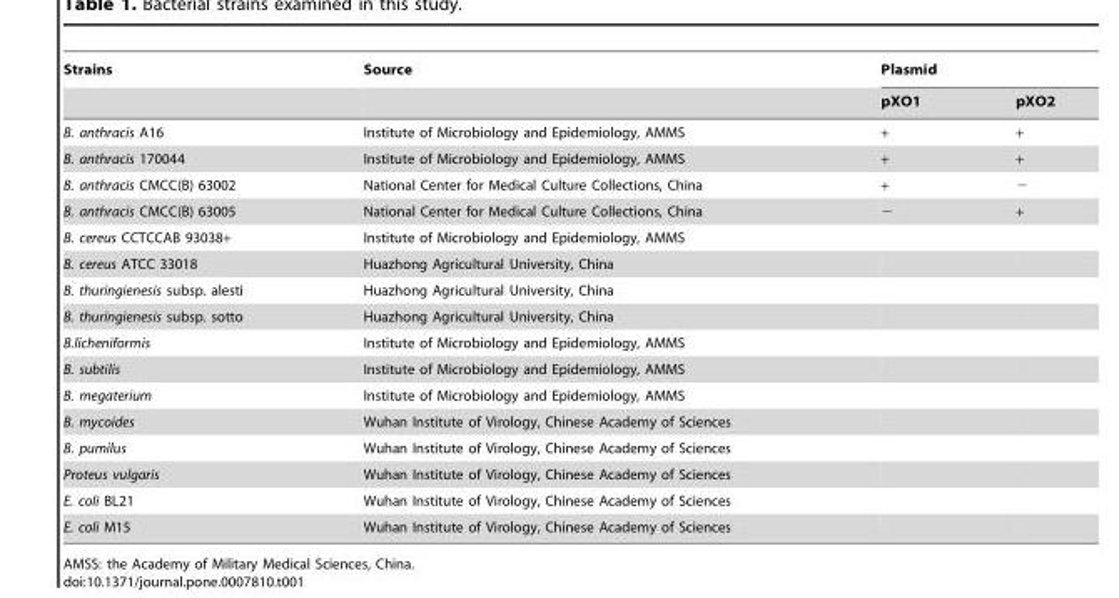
<table><thead><tr><td rowspan="2">Strains</td><td rowspan="2">Source</td><td colspan="2">Plasmid</td></tr><tr><td>pXO1</td><td>pXO2</td></tr></thead><tbody><tr><td>B. anthracis A16</td><td>Institute of Microbiology and Epidemiology, AMMS</td><td>+</td><td>+</td></tr><tr><td>B. anthracis 170044</td><td>Institute of Microbiology and Epidemiology, AMMS</td><td>+</td><td>+</td></tr><tr><td>B. anthracis CMCC(B) 63002</td><td>National Center for Medical Culture Collections, China</td><td>+</td><td>−</td></tr><tr><td>B. anthracis CMCC(B) 63005</td><td>National Center for Medical Culture Collections, China</td><td>−</td><td>+</td></tr><tr><td>B. cereus CCTCCAB 93038+</td><td>Institute of Microbiology and Epidemiology, AMMS</td><td></td><td></td></tr><tr><td>B. cereus ATCC 33018</td><td>Huazhong Agricultural University, China</td><td></td><td></td></tr><tr><td>B. thuringienesis subsp. alesti</td><td>Huazhong Agricultural University, China</td><td></td><td></td></tr><tr><td>B. thuringienesis subsp. sotto</td><td>Huazhong Agricultural University, China</td><td></td><td></td></tr><tr><td>B.licheniformis</td><td>Institute of Microbiology and Epidemiology, AMMS</td><td></td><td></td></tr><tr><td>B. subtilis</td><td>Institute of Microbiology and Epidemiology, AMMS</td><td></td><td></td></tr><tr><td>B. megaterium</td><td>Institute of Microbiology and Epidemiology, AMMS</td><td></td><td></td></tr><tr><td>B. mycoides</td><td>Wuhan Institute of Virology, Chinese Academy of Sciences</td><td></td><td></td></tr><tr><td>B. pumilus</td><td>Wuhan Institute of Virology, Chinese Academy of Sciences</td><td></td><td></td></tr><tr><td>Proteus vulgaris</td><td>Wuhan Institute of Virology, Chinese Academy of Sciences</td><td></td><td></td></tr><tr><td>E. coli BL21</td><td>Wuhan Institute of Virology, Chinese Academy of Sciences</td><td></td><td></td></tr><tr><td>E. coli M15</td><td>Wuhan Institute of Virology, Chinese Academy of Sciences</td><td></td><td></td></tr></tbody></table>